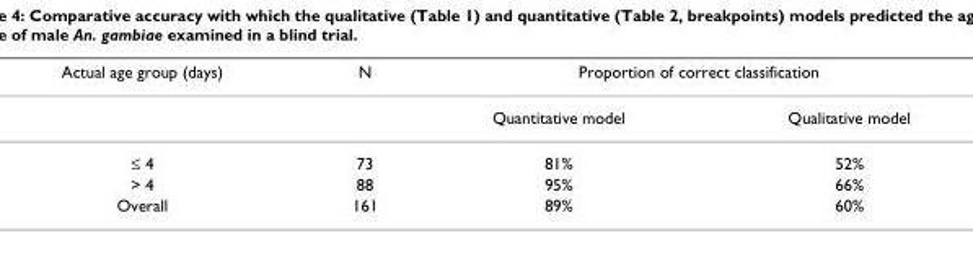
<table><thead><tr><td rowspan="2">Actual age group (days)</td><td rowspan="2">N</td><td colspan="2">Proportion of correct classification</td></tr><tr><td>Quantitative model</td><td>Qualitative model</td></tr></thead><tbody><tr><td>≤ 4</td><td>73</td><td>81%</td><td>52%</td></tr><tr><td>&gt; 4</td><td>88</td><td>95%</td><td>66%</td></tr><tr><td>Overall</td><td>161</td><td>89%</td><td>60%</td></tr></tbody></table>